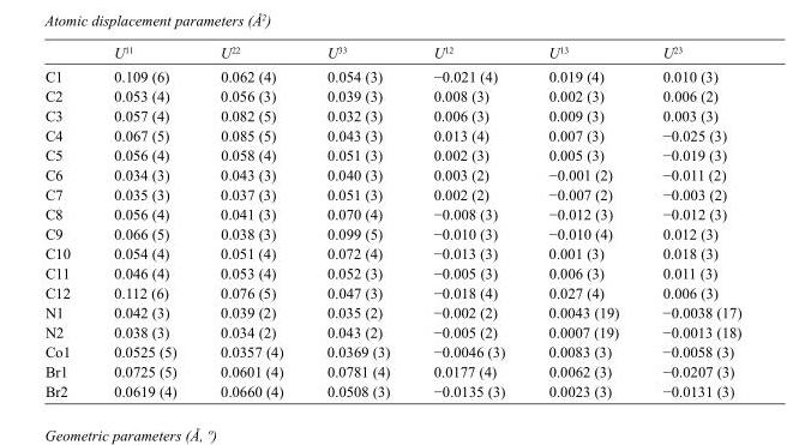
<table><thead><tr><td></td><td>U<sup>11</sup></td><td>U<sup>22</sup></td><td>U<sup>33</sup></td><td>U<sup>12</sup></td><td>U<sup>13</sup></td><td>U<sup>23</sup></td></tr></thead><tbody><tr><td>C1</td><td>0.109 (6)</td><td>0.062 (4)</td><td>0.054 (3)</td><td>−0.021 (4)</td><td>0.019 (4)</td><td>0.010 (3)</td></tr><tr><td>C2</td><td>0.053 (4)</td><td>0.056 (3)</td><td>0.039 (3)</td><td>0.008 (3)</td><td>0.002 (3)</td><td>0.006 (2)</td></tr><tr><td>C3</td><td>0.057 (4)</td><td>0.082 (5)</td><td>0.032 (3)</td><td>0.006 (3)</td><td>0.009 (3)</td><td>0.003 (3)</td></tr><tr><td>C4</td><td>0.067 (5)</td><td>0.085 (5)</td><td>0.043 (3)</td><td>0.013 (4)</td><td>0.007 (3)</td><td>−0.025 (3)</td></tr><tr><td>C5</td><td>0.056 (4)</td><td>0.058 (4)</td><td>0.051 (3)</td><td>0.002 (3)</td><td>0.005 (3)</td><td>−0.019 (3)</td></tr><tr><td>C6</td><td>0.034 (3)</td><td>0.043 (3)</td><td>0.040 (3)</td><td>0.003 (2)</td><td>−0.001 (2)</td><td>−0.011 (2)</td></tr><tr><td>C7</td><td>0.035 (3)</td><td>0.037 (3)</td><td>0.051 (3)</td><td>0.002 (2)</td><td>−0.007 (2)</td><td>−0.003 (2)</td></tr><tr><td>C8</td><td>0.056 (4)</td><td>0.041 (3)</td><td>0.070 (4)</td><td>−0.008 (3)</td><td>−0.012 (3)</td><td>−0.012 (3)</td></tr><tr><td>C9</td><td>0.066 (5)</td><td>0.038 (3)</td><td>0.099 (5)</td><td>−0.010 (3)</td><td>−0.010 (4)</td><td>0.012 (3)</td></tr><tr><td>C10</td><td>0.054 (4)</td><td>0.051 (4)</td><td>0.072 (4)</td><td>−0.013 (3)</td><td>0.001 (3)</td><td>0.018 (3)</td></tr><tr><td>C11</td><td>0.046 (4)</td><td>0.053 (4)</td><td>0.052 (3)</td><td>−0.005 (3)</td><td>0.006 (3)</td><td>0.011 (3)</td></tr><tr><td>C12</td><td>0.112 (6)</td><td>0.076 (5)</td><td>0.047 (3)</td><td>−0.018 (4)</td><td>0.027 (4)</td><td>0.006 (3)</td></tr><tr><td>N1</td><td>0.042 (3)</td><td>0.039 (2)</td><td>0.035 (2)</td><td>−0.002 (2)</td><td>0.0043 (19)</td><td>−0.0038 (17)</td></tr><tr><td>N2</td><td>0.038 (3)</td><td>0.034 (2)</td><td>0.043 (2)</td><td>−0.005 (2)</td><td>0.0007 (19)</td><td>−0.0013 (18)</td></tr><tr><td>Co1</td><td>0.0525 (5)</td><td>0.0357 (4)</td><td>0.0369 (3)</td><td>−0.0046 (3)</td><td>0.0083 (3)</td><td>−0.0058 (3)</td></tr><tr><td>Br1</td><td>0.0725 (5)</td><td>0.0601 (4)</td><td>0.0781 (4)</td><td>0.0177 (4)</td><td>0.0062 (3)</td><td>−0.0207 (3)</td></tr><tr><td>Br2</td><td>0.0619 (4)</td><td>0.0660 (4)</td><td>0.0508 (3)</td><td>−0.0135 (3)</td><td>0.0023 (3)</td><td>−0.0131 (3)</td></tr></tbody></table>